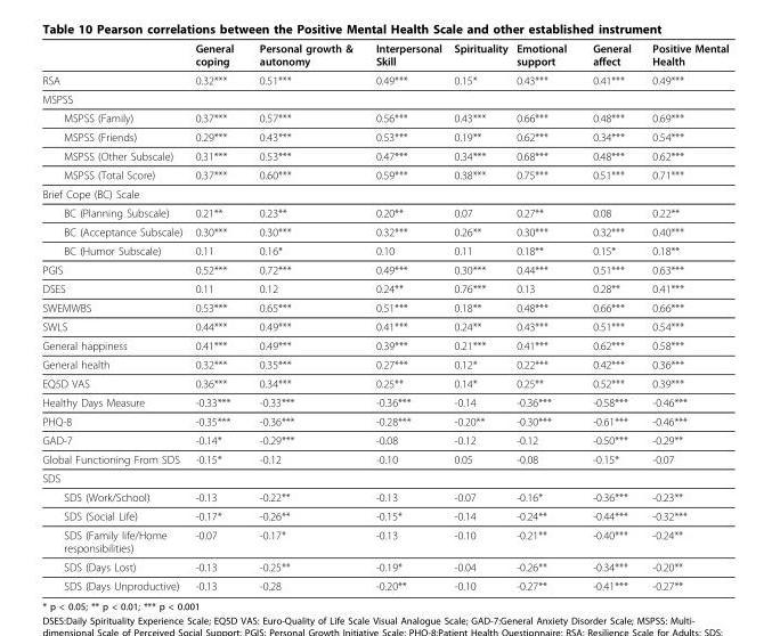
<table><thead><tr><td></td><td>General coping</td><td>Personal growth &amp; autonomy</td><td>Interpersonal Skill</td><td>Spirituality</td><td>Emotional support</td><td>General affect</td><td>Positive Mental Health</td></tr></thead><tbody><tr><td>RSA</td><td>0.32***</td><td>0.51***</td><td>0.49***</td><td>0.15*</td><td>0.43***</td><td>0.41***</td><td>0.49***</td></tr><tr><td colspan="8">MSPSS</td></tr><tr><td>MSPSS (Family)</td><td>0.37***</td><td>0.57***</td><td>0.56***</td><td>0.43***</td><td>0.66***</td><td>0.48***</td><td>0.69***</td></tr><tr><td>MSPSS (Friends)</td><td>0.29***</td><td>0.43***</td><td>0.53***</td><td>0.19**</td><td>0.62***</td><td>0.34***</td><td>0.54***</td></tr><tr><td>MSPSS (Other Subscale)</td><td>0.31***</td><td>0.53***</td><td>0.47***</td><td>0.34***</td><td>0.68***</td><td>0.48***</td><td>0.62***</td></tr><tr><td>MSPSS (Total Score)</td><td>0.37***</td><td>0.60***</td><td>0.59***</td><td>0.38***</td><td>0.75***</td><td>0.51***</td><td>0.71***</td></tr><tr><td colspan="8">Brief Cope (BC) Scale</td></tr><tr><td>BC (Planning Subscale)</td><td>0.21**</td><td>0.23**</td><td>0.20**</td><td>0.07</td><td>0.27**</td><td>0.08</td><td>0.22**</td></tr><tr><td>BC (Acceptance Subscale)</td><td>0.30***</td><td>0.30***</td><td>0.32***</td><td>0.26**</td><td>0.30***</td><td>0.32***</td><td>0.40***</td></tr><tr><td>BC (Humor Subscale)</td><td>0.11</td><td>0.16*</td><td>0.10</td><td>0.11</td><td>0.18**</td><td>0.15*</td><td>0.18**</td></tr><tr><td>PGIS</td><td>0.52***</td><td>0.72***</td><td>0.49***</td><td>0.30***</td><td>0.44***</td><td>0.51***</td><td>0.63***</td></tr><tr><td>DSES</td><td>0.11</td><td>0.12</td><td>0.24**</td><td>0.76***</td><td>0.13</td><td>0.28**</td><td>0.41***</td></tr><tr><td>SWEMWBS</td><td>0.53***</td><td>0.65***</td><td>0.51***</td><td>0.18**</td><td>0.48***</td><td>0.66***</td><td>0.66***</td></tr><tr><td>SWLS</td><td>0.44***</td><td>0.49***</td><td>0.41***</td><td>0.24**</td><td>0.43***</td><td>0.51***</td><td>0.54***</td></tr><tr><td>General happiness</td><td>0.41***</td><td>0.49***</td><td>0.39***</td><td>0.21***</td><td>0.41***</td><td>0.62***</td><td>0.58***</td></tr><tr><td>General health</td><td>0.32***</td><td>0.35***</td><td>0.27***</td><td>0.12*</td><td>0.22***</td><td>0.42***</td><td>0.36***</td></tr><tr><td>EQ5D VAS</td><td>0.36***</td><td>0.34***</td><td>0.25**</td><td>0.14*</td><td>0.25**</td><td>0.52***</td><td>0.39***</td></tr><tr><td>Healthy Days Measure</td><td>-0.33***</td><td>-0.33***</td><td>-0.36***</td><td>-0.14</td><td>-0.36***</td><td>-0.58***</td><td>-0.46***</td></tr><tr><td>PHQ-8</td><td>-0.35***</td><td>-0.36***</td><td>-0.28***</td><td>-0.20**</td><td>-0.30***</td><td>-0.61***</td><td>-0.46***</td></tr><tr><td>GAD-7</td><td>-0.14*</td><td>-0.29***</td><td>-0.08</td><td>-0.12</td><td>-0.12</td><td>-0.50***</td><td>-0.29**</td></tr><tr><td>Global Functioning From SDS</td><td>-0.15*</td><td>-0.12</td><td>-0.10</td><td>0.05</td><td>-0.08</td><td>-0.15*</td><td>-0.07</td></tr><tr><td colspan="8">SDS</td></tr><tr><td>SDS (Work/School)</td><td>-0.13</td><td>-0.22**</td><td>-0.13</td><td>-0.07</td><td>-0.16*</td><td>-0.36***</td><td>-0.23**</td></tr><tr><td>SDS (Social Life)</td><td>-0.17*</td><td>-0.26**</td><td>-0.15*</td><td>-0.14</td><td>-0.24**</td><td>-0.44***</td><td>-0.32***</td></tr><tr><td>SDS (Family life/Home responsibilities)</td><td>-0.07</td><td>-0.17*</td><td>-0.13</td><td>-0.10</td><td>-0.21**</td><td>-0.40***</td><td>-0.24**</td></tr><tr><td>SDS (Days Lost)</td><td>-0.13</td><td>-0.25**</td><td>-0.19*</td><td>-0.04</td><td>-0.26**</td><td>-0.34***</td><td>-0.20**</td></tr><tr><td>SDS (Days Unproductive)</td><td>-0.13</td><td>-0.28</td><td>-0.20**</td><td>-0.10</td><td>-0.27**</td><td>-0.41***</td><td>-0.27**</td></tr></tbody></table>